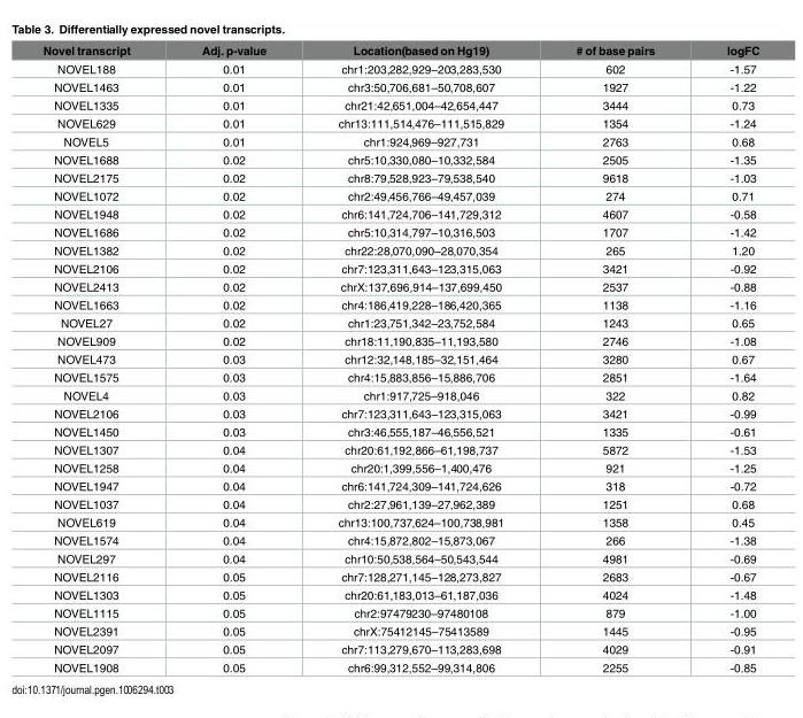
<table><thead><tr><td>Novel transcript</td><td>Adj. p-value</td><td>Location(based on Hg19)</td><td># of base pairs</td><td>logFC</td></tr></thead><tbody><tr><td>NOVEL188</td><td>0.01</td><td>chr1:203,282,929–203,283,530</td><td>602</td><td>-1.57</td></tr><tr><td>NOVEL1463</td><td>0.01</td><td>chr3:50,706,681–50,708,607</td><td>1927</td><td>-1.22</td></tr><tr><td>NOVEL1335</td><td>0.01</td><td>chr21:42,651,004–42,654,447</td><td>3444</td><td>0.73</td></tr><tr><td>NOVEL629</td><td>0.01</td><td>chr13:111,514,476–111,515,829</td><td>1354</td><td>-1.24</td></tr><tr><td>NOVEL5</td><td>0.01</td><td>chr1:924,969–927,731</td><td>2763</td><td>0.68</td></tr><tr><td>NOVEL1688</td><td>0.02</td><td>chr5:10,330,080–10,332,584</td><td>2505</td><td>-1.35</td></tr><tr><td>NOVEL2175</td><td>0.02</td><td>chr8:79,528,923–79,538,540</td><td>9618</td><td>-1.03</td></tr><tr><td>NOVEL1072</td><td>0.02</td><td>chr2:49,456,766–49,457,039</td><td>274</td><td>0.71</td></tr><tr><td>NOVEL1948</td><td>0.02</td><td>chr6:141,724,706–141,729,312</td><td>4607</td><td>-0.58</td></tr><tr><td>NOVEL1686</td><td>0.02</td><td>chr5:10,314,797–10,316,503</td><td>1707</td><td>-1.42</td></tr><tr><td>NOVEL1382</td><td>0.02</td><td>chr22:28,070,090–28,070,354</td><td>265</td><td>1.20</td></tr><tr><td>NOVEL2106</td><td>0.02</td><td>chr7:123,311,643–123,315,063</td><td>3421</td><td>-0.92</td></tr><tr><td>NOVEL2413</td><td>0.02</td><td>chrX:137,696,914–137,699,450</td><td>2537</td><td>-0.88</td></tr><tr><td>NOVEL1663</td><td>0.02</td><td>chr4:186,419,228–186,420,365</td><td>1138</td><td>-1.16</td></tr><tr><td>NOVEL27</td><td>0.02</td><td>chr1:23,751,342–23,752,584</td><td>1243</td><td>0.65</td></tr><tr><td>NOVEL909</td><td>0.02</td><td>chr18:11,190,835–11,193,580</td><td>2746</td><td>-1.08</td></tr><tr><td>NOVEL473</td><td>0.03</td><td>chr12:32,148,185–32,151,464</td><td>3280</td><td>0.67</td></tr><tr><td>NOVEL1575</td><td>0.03</td><td>chr4:15,883,856–15,886,706</td><td>2851</td><td>-1.64</td></tr><tr><td>NOVEL4</td><td>0.03</td><td>chr1:917,725–918,046</td><td>322</td><td>0.82</td></tr><tr><td>NOVEL2106</td><td>0.03</td><td>chr7:123,311,643–123,315,063</td><td>3421</td><td>-0.99</td></tr><tr><td>NOVEL1450</td><td>0.03</td><td>chr3:46,555,187–46,556,521</td><td>1335</td><td>-0.61</td></tr><tr><td>NOVEL1307</td><td>0.04</td><td>chr20:61,192,866–61,198,737</td><td>5872</td><td>-1.53</td></tr><tr><td>NOVEL1258</td><td>0.04</td><td>chr20:1,399,556–1,400,476</td><td>921</td><td>-1.25</td></tr><tr><td>NOVEL1947</td><td>0.04</td><td>chr6:141,724,309–141,724,626</td><td>318</td><td>-0.72</td></tr><tr><td>NOVEL1037</td><td>0.04</td><td>chr2:27,961,139–27,962,389</td><td>1251</td><td>0.68</td></tr><tr><td>NOVEL619</td><td>0.04</td><td>chr13:100,737,624–100,738,981</td><td>1358</td><td>0.45</td></tr><tr><td>NOVEL1574</td><td>0.04</td><td>chr4:15,872,802–15,873,067</td><td>266</td><td>-1.38</td></tr><tr><td>NOVEL297</td><td>0.04</td><td>chr10:50,538,564–50,543,544</td><td>4981</td><td>-0.69</td></tr><tr><td>NOVEL2116</td><td>0.05</td><td>chr7:128,271,145–128,273,827</td><td>2683</td><td>-0.67</td></tr><tr><td>NOVEL1303</td><td>0.05</td><td>chr20:61,183,013–61,187,036</td><td>4024</td><td>-1.48</td></tr><tr><td>NOVEL1115</td><td>0.05</td><td>chr2:97479230–97480108</td><td>879</td><td>-1.00</td></tr><tr><td>NOVEL2391</td><td>0.05</td><td>chrX:75412145–75413589</td><td>1445</td><td>-0.95</td></tr><tr><td>NOVEL2097</td><td>0.05</td><td>chr7:113,279,670–113,283,698</td><td>4029</td><td>-0.91</td></tr><tr><td>NOVEL1908</td><td>0.05</td><td>chr6:99,312,552–99,314,806</td><td>2255</td><td>-0.85</td></tr></tbody></table>